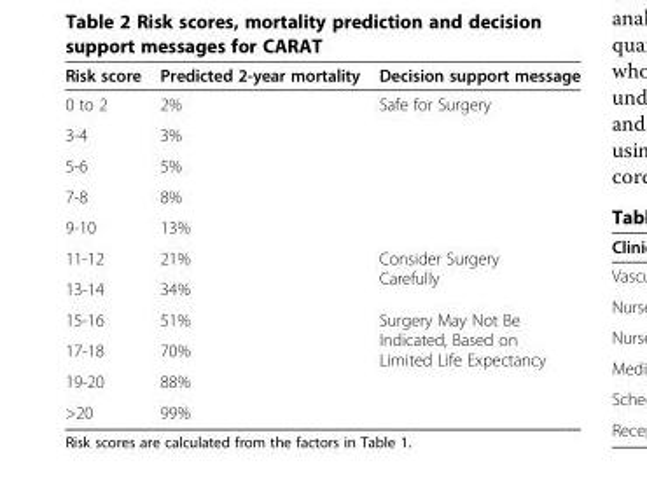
<table><thead><tr><td>Risk score</td><td>Predicted 2-year mortality</td><td>Decision support message</td></tr></thead><tbody><tr><td>0 to 2</td><td>2%</td><td rowspan="5">Safe for Surgery</td></tr><tr><td>3-4</td><td>3%</td></tr><tr><td>5-6</td><td>5%</td></tr><tr><td>7-8</td><td>8%</td></tr><tr><td>9-10</td><td>13%</td></tr><tr><td>11-12</td><td>21%</td><td rowspan="2">Consider Surgery Carefully</td></tr><tr><td>13-14</td><td>34%</td></tr><tr><td>15-16</td><td>51%</td><td rowspan="4">Surgery May Not Be Indicated, Based on Limited Life Expectancy</td></tr><tr><td>17-18</td><td>70%</td></tr><tr><td>19-20</td><td>88%</td></tr><tr><td>&gt;20</td><td>99%</td></tr></tbody></table>